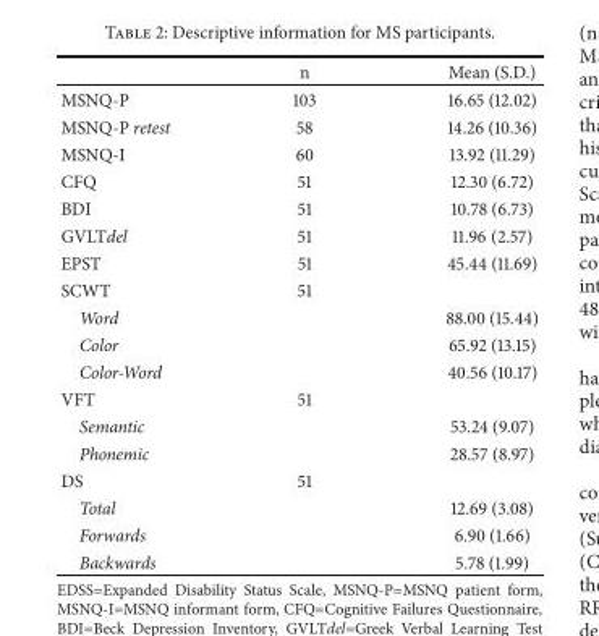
<table><thead><tr><td></td><td>n</td><td>Mean (S.D.)</td></tr></thead><tbody><tr><td>MSNQ-P</td><td>103</td><td>16.65 (12.02)</td></tr><tr><td>MSNQ-P retest</td><td>58</td><td>14.26 (10.36)</td></tr><tr><td>MSNQ-I</td><td>60</td><td>13.92 (11.29)</td></tr><tr><td>CFQ</td><td>51</td><td>12.30 (6.72)</td></tr><tr><td>BDI</td><td>51</td><td>10.78 (6.73)</td></tr><tr><td>GVLTdel</td><td>51</td><td>11.96 (2.57)</td></tr><tr><td>EPST</td><td>51</td><td>45.44 (11.69)</td></tr><tr><td>SCWT</td><td>51</td><td></td></tr><tr><td>Word</td><td></td><td>88.00 (15.44)</td></tr><tr><td>Color</td><td></td><td>65.92 (13.15)</td></tr><tr><td>Color-Word</td><td></td><td>40.56 (10.17)</td></tr><tr><td>VFT</td><td>51</td><td></td></tr><tr><td>Semantic</td><td></td><td>53.24 (9.07)</td></tr><tr><td>Phonemic</td><td></td><td>28.57 (8.97)</td></tr><tr><td>DS</td><td>51</td><td></td></tr><tr><td>Total</td><td></td><td>12.69 (3.08)</td></tr><tr><td>Forwards</td><td></td><td>6.90 (1.66)</td></tr><tr><td>Backwards</td><td></td><td>5.78 (1.99)</td></tr></tbody></table>